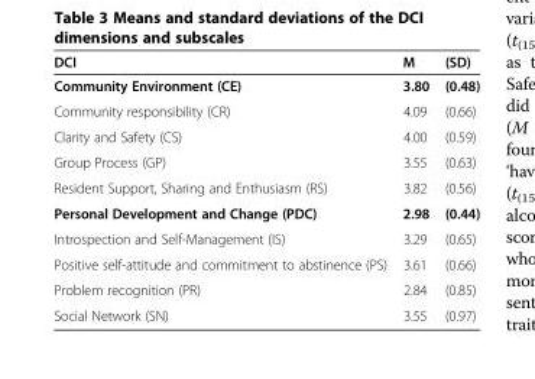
<table><thead><tr><td>DCI</td><td>M</td><td>(SD)</td></tr></thead><tbody><tr><td>Community Environment (CE)</td><td>3.80</td><td>(0.48)</td></tr><tr><td>Community responsibility (CR)</td><td>4.09</td><td>(0.66)</td></tr><tr><td>Clarity and Safety (CS)</td><td>4.00</td><td>(0.59)</td></tr><tr><td>Group Process (GP)</td><td>3.55</td><td>(0.63)</td></tr><tr><td>Resident Support, Sharing and Enthusiasm (RS)</td><td>3.82</td><td>(0.56)</td></tr><tr><td>Personal Development and Change (PDC)</td><td>2.98</td><td>(0.44)</td></tr><tr><td>Introspection and Self-Management (IS)</td><td>3.29</td><td>(0.65)</td></tr><tr><td>Positive self-attitude and commitment to abstinence (PS)</td><td>3.61</td><td>(0.66)</td></tr><tr><td>Problem recognition (PR)</td><td>2.84</td><td>(0.85)</td></tr><tr><td>Social Network (SN)</td><td>3.55</td><td>(0.97)</td></tr></tbody></table>